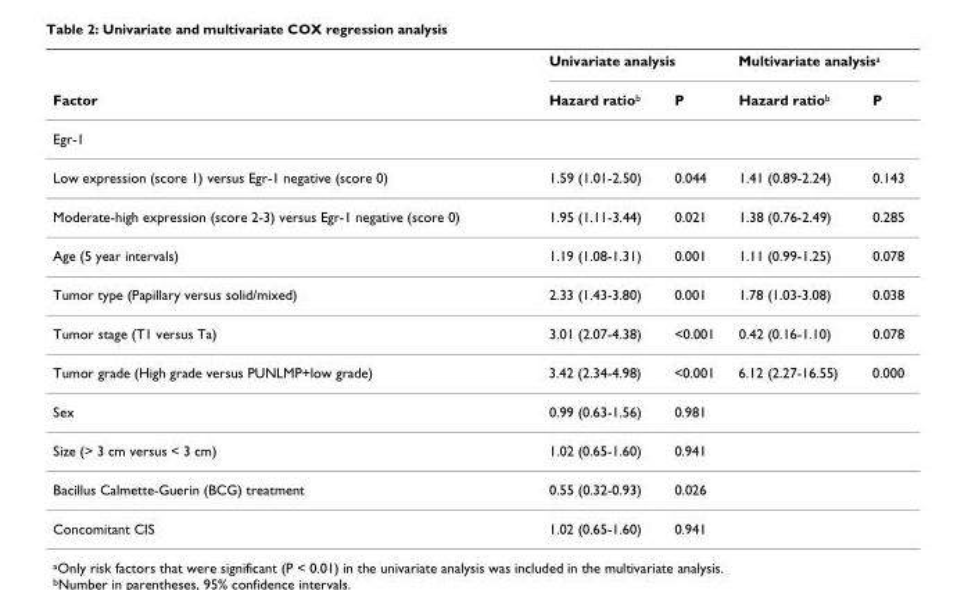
<table><thead><tr><td rowspan="2">Factor</td><td colspan="2">Univariate analysis</td><td colspan="2">Multivariate analysis<sup>a</sup></td></tr><tr><td>Hazard ratio<sup>b</sup></td><td>P</td><td>Hazard ratio<sup>b</sup></td><td>P</td></tr></thead><tbody><tr><td colspan="5">Egr-1</td></tr><tr><td>Low expression (score 1) versus Egr-1 negative (score 0)</td><td>1.59 (1.01-2.50)</td><td>0.044</td><td>1.41 (0.89-2.24)</td><td>0.143</td></tr><tr><td>Moderate-high expression (score 2-3) versus Egr-1 negative (score 0)</td><td>1.95 (1.11-3.44)</td><td>0.021</td><td>1.38 (0.76-2.49)</td><td>0.285</td></tr><tr><td>Age (5 year intervals)</td><td>1.19 (1.08-1.31)</td><td>0.001</td><td>1.11 (0.99-1.25)</td><td>0.078</td></tr><tr><td>Tumor type (Papillary versus solid/mixed)</td><td>2.33 (1.43-3.80)</td><td>0.001</td><td>1.78 (1.03-3.08)</td><td>0.038</td></tr><tr><td>Tumor stage (T1 versus Ta)</td><td>3.01 (2.07-4.38)</td><td>&lt;0.001</td><td>0.42 (0.16-1.10)</td><td>0.078</td></tr><tr><td>Tumor grade (High grade versus PUNLMP+low grade)</td><td>3.42 (2.34-4.98)</td><td>&lt;0.001</td><td>6.12 (2.27-16.55)</td><td>0.000</td></tr><tr><td>Sex</td><td>0.99 (0.63-1.56)</td><td>0.981</td><td></td><td></td></tr><tr><td>Size (&gt; 3 cm versus &lt; 3 cm)</td><td>1.02 (0.65-1.60)</td><td>0.941</td><td></td><td></td></tr><tr><td>Bacillus Calmette-Guerin (BCG) treatment</td><td>0.55 (0.32-0.93)</td><td>0.026</td><td></td><td></td></tr><tr><td>Concomitant CIS</td><td>1.02 (0.65-1.60)</td><td>0.941</td><td></td><td></td></tr></tbody></table>